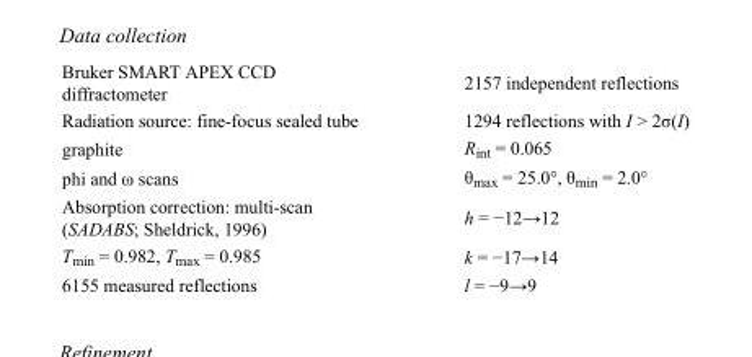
<table><tbody><tr><td>Bruker SMART APEX CCD diffractometer</td><td>2157 independent reflections</td></tr><tr><td>Radiation source: fine-focus sealed tube</td><td>1294 reflections with I &gt; 2σ(I)</td></tr><tr><td>graphite</td><td>R<sub>int</sub> = 0.065</td></tr><tr><td>phi and ω scans</td><td>θ<sub>max</sub> = 25.0°, θ<sub>min</sub> = 2.0°</td></tr><tr><td>Absorption correction: multi-scan (SADABS; Sheldrick, 1996)</td><td>h = −12→12</td></tr><tr><td>T<sub>min</sub> = 0.982, T<sub>max</sub> = 0.985</td><td>k = −17→14</td></tr><tr><td>6155 measured reflections</td><td>l = −9→9</td></tr></tbody></table>